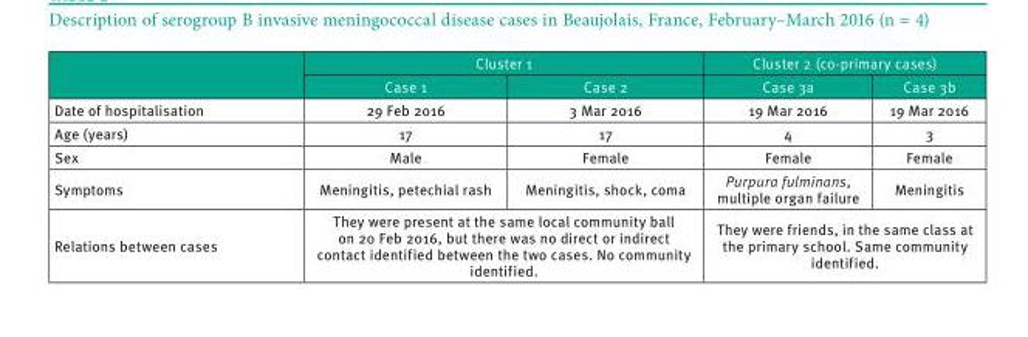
<table><thead><tr><td rowspan="2"></td><td colspan="2">Cluster 1</td><td colspan="2">Cluster 2 (co-primary cases)</td></tr><tr><td>Case 1</td><td>Case 2</td><td>Case 3a</td><td>Case 3b</td></tr></thead><tbody><tr><td>Date of hospitalisation</td><td>29 Feb 2016</td><td>3 Mar 2016</td><td>19 Mar 2016</td><td>19 Mar 2016</td></tr><tr><td>Age (years)</td><td>17</td><td>17</td><td>4</td><td>3</td></tr><tr><td>Sex</td><td>Male</td><td>Female</td><td>Female</td><td>Female</td></tr><tr><td>Symptoms</td><td>Meningitis, petechial rash</td><td>Meningitis, shock, coma</td><td>Purpura fulminans, multiple organ failure</td><td>Meningitis</td></tr><tr><td>Relations between cases</td><td colspan="2">They were present at the same local community ball on 20 Feb 2016, but there was no direct or indirect contact identified between the two cases. No community identified.</td><td colspan="2">They were friends, in the same class at the primary school. Same community identified.</td></tr></tbody></table>